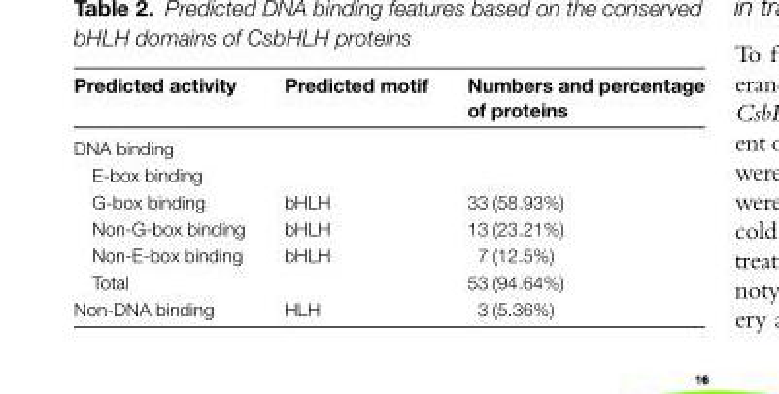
<table><thead><tr><td>Predicted activity</td><td>Predicted motif</td><td>Numbers and percentage of proteins</td></tr></thead><tbody><tr><td colspan="3">DNA binding</td></tr><tr><td colspan="3">E-box binding</td></tr><tr><td>G-box binding</td><td>bHLH</td><td>33 (58.93%)</td></tr><tr><td>Non-G-box binding</td><td>bHLH</td><td>13 (23.21%)</td></tr><tr><td>Non-E-box binding</td><td>bHLH</td><td>7 (12.5%)</td></tr><tr><td>Total</td><td></td><td>53 (94.64%)</td></tr><tr><td>Non-DNA binding</td><td>HLH</td><td>3 (5.36%)</td></tr></tbody></table>